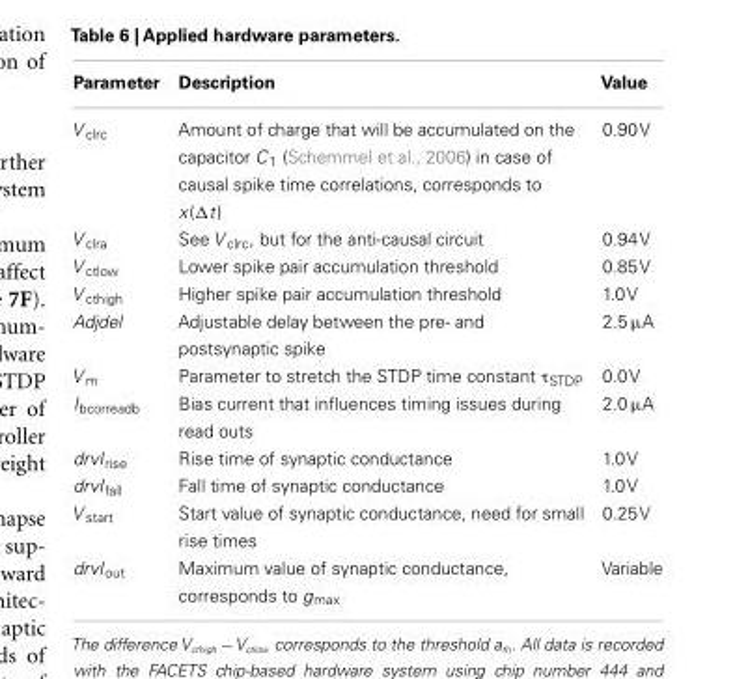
<table><thead><tr><td>Parameter</td><td>Description</td><td>Value</td></tr></thead><tbody><tr><td>V <sub>clrc</sub></td><td>Amount of charge that will be accumulated on the capacitor C1 (Schemmel et al., 2006) in case of causal spike time correlations, corresponds to x(∆t)</td><td>0.90V</td></tr><tr><td>V <sub>clra</sub></td><td>See V <sub>clrc</sub>, but for the anti-causal circuit</td><td>0.94V</td></tr><tr><td>V <sub>ctlow</sub></td><td>Lower spike pair accumulation threshold</td><td>0.85V</td></tr><tr><td>V <sub>cthigh</sub></td><td>Higher spike pair accumulation threshold</td><td>1.0V</td></tr><tr><td>Adjdel</td><td>Adjustable delay between the pre- and postsynaptic spike</td><td>2.5 µA</td></tr><tr><td>V <sub>m</sub></td><td>Parameter to stretch the STDP time constant τ<sub>STDP</sub></td><td>0.0V</td></tr><tr><td>I<sub>bcorreadb</sub></td><td>Bias current that influences timing issues during read outs</td><td>2.0 µA</td></tr><tr><td>drvI<sub>rise</sub></td><td>Rise time of synaptic conductance</td><td>1.0V</td></tr><tr><td>drvI<sub>fall</sub></td><td>Fall time of synaptic conductance</td><td>1.0V</td></tr><tr><td>V <sub>start</sub></td><td>Start value of synaptic conductance, need for small rise times</td><td>0.25V</td></tr><tr><td>drvI<sub>out</sub></td><td>Maximum value of synaptic conductance, corresponds to g<sub>max</sub></td><td>Variable</td></tr></tbody></table>